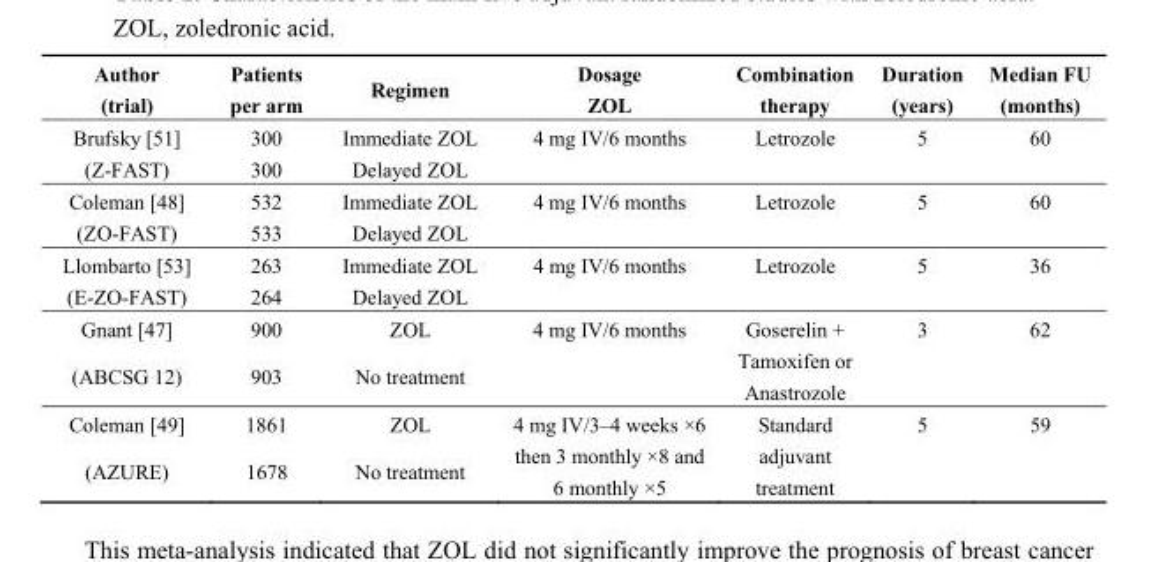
<table><thead><tr><td>Author (trial)</td><td>Patients per arm</td><td>Regimen</td><td>Dosage ZOL</td><td>Combination therapy</td><td>Duration (years)</td><td>Median FU (months)</td></tr></thead><tbody><tr><td>Brufsky [51]</td><td>300</td><td>Immediate ZOL</td><td>4 mg IV/6 months</td><td>Letrozole</td><td>5</td><td>60</td></tr><tr><td>(Z-FAST)</td><td>300</td><td>Delayed ZOL</td><td></td><td></td><td></td><td></td></tr><tr><td>Coleman [48]</td><td>532</td><td>Immediate ZOL</td><td>4 mg IV/6 months</td><td>Letrozole</td><td>5</td><td>60</td></tr><tr><td>(ZO-FAST)</td><td>533</td><td>Delayed ZOL</td><td></td><td></td><td></td><td></td></tr><tr><td>Llombarto [53]</td><td>263</td><td>Immediate ZOL</td><td>4 mg IV/6 months</td><td>Letrozole</td><td>5</td><td>36</td></tr><tr><td>(E-ZO-FAST)</td><td>264</td><td>Delayed ZOL</td><td></td><td></td><td></td><td></td></tr><tr><td>Gnant [47]</td><td>900</td><td>ZOL</td><td>4 mg IV/6 months</td><td>Goserelin +</td><td>3</td><td>62</td></tr><tr><td>(ABCSG 12)</td><td>903</td><td>No treatment</td><td></td><td>Tamoxifen or Anastrozole</td><td></td><td></td></tr><tr><td>Coleman [49]</td><td>1861</td><td>ZOL</td><td>4 mg IV/3–4 weeks ×6</td><td>Standard</td><td>5</td><td>59</td></tr><tr><td>(AZURE)</td><td>1678</td><td>No treatment</td><td>then 3 monthly ×8 and 6 monthly ×5</td><td>adjuvant treatment</td><td></td><td></td></tr></tbody></table>